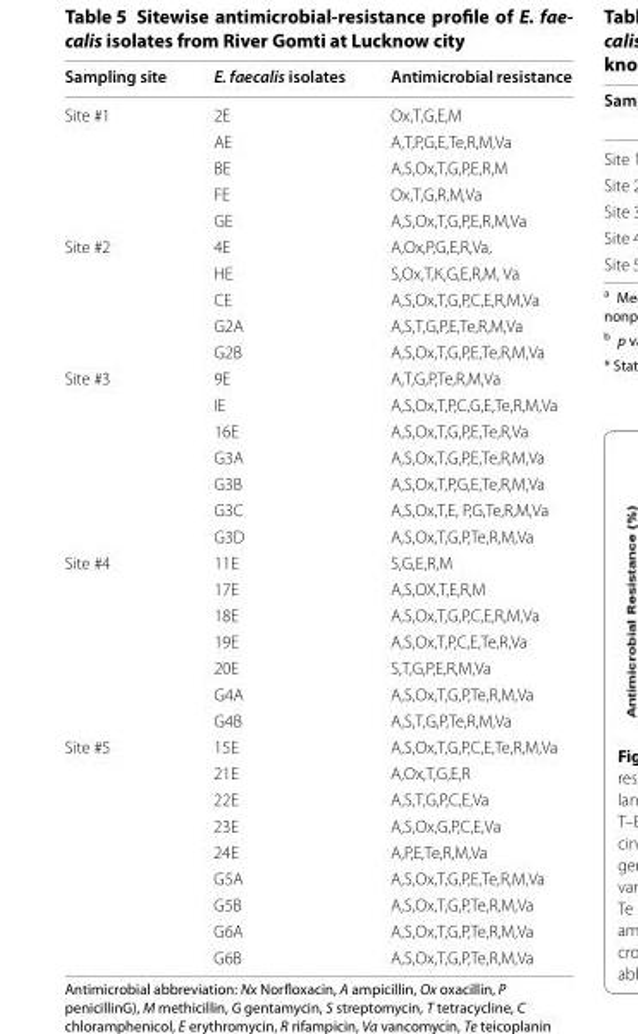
<table><thead><tr><td>Sampling site</td><td>E. faecalis isolates</td><td>Antimicrobial resistance</td></tr></thead><tbody><tr><td rowspan="5">Site #1</td><td>2E</td><td>Ox,T,G,E,M</td></tr><tr><td>AE</td><td>A,T,P,G,E,Te,R,M,Va</td></tr><tr><td>BE</td><td>A,S,Ox,T,G,P,E,R,M</td></tr><tr><td>FE</td><td>Ox,T,G,R,M,Va</td></tr><tr><td>GE</td><td>A,S,Ox,T,G,P,E,R,M,Va</td></tr><tr><td rowspan="5">Site #2</td><td>4E</td><td>A,Ox,P,G,E,R,Va,</td></tr><tr><td>HE</td><td>S,Ox,T,K,G,E,R,M, Va</td></tr><tr><td>CE</td><td>A,S,Ox,T,G,P,C,E,R,M,Va</td></tr><tr><td>G2A</td><td>A,S,T,G,P,E,Te,R,M,Va</td></tr><tr><td>G2B</td><td>A,S,Ox,T,G,P,E,Te,R,M,Va</td></tr><tr><td rowspan="7">Site #3</td><td>9E</td><td>A,T,G,P,Te,R,M,Va</td></tr><tr><td>IE</td><td>A,S,Ox,T,P,C,G,E,Te,R,M,Va</td></tr><tr><td>16E</td><td>A,S,Ox,T,G,P,E,Te,R,Va</td></tr><tr><td>G3A</td><td>A,S,Ox,T,G,P,E,Te,R,M,Va</td></tr><tr><td>G3B</td><td>A,S,Ox,T,P,G,E,Te,R,M,Va</td></tr><tr><td>G3C</td><td>A,S,Ox,T,E, P,G,Te,R,M,Va</td></tr><tr><td>G3D</td><td>A,S,Ox,T,G,P,Te,R,M,Va</td></tr><tr><td rowspan="7">Site #4</td><td>11E</td><td>S,G,E,R,M</td></tr><tr><td>17E</td><td>A,S,OX,T,E,R,M</td></tr><tr><td>18E</td><td>A,S,Ox,T,G,P,C,E,R,M,Va</td></tr><tr><td>19E</td><td>A,S,Ox,T,P,C,E,Te,R,Va</td></tr><tr><td>20E</td><td>S,T,G,P,E,R,M,Va</td></tr><tr><td>G4A</td><td>A,S,Ox,T,G,P,Te,R,M,Va</td></tr><tr><td>G4B</td><td>A,S,T,G,P,Te,R,M,Va</td></tr><tr><td rowspan="9">Site #5</td><td>15E</td><td>A,S,Ox,T,G,P,C,E,Te,R,M,Va</td></tr><tr><td>21E</td><td>A,Ox,T,G,E,R</td></tr><tr><td>22E</td><td>A,S,T,G,P,C,E,Va</td></tr><tr><td>23E</td><td>A,S,Ox,G,P,C,E,Va</td></tr><tr><td>24E</td><td>A,P,E,Te,R,M,Va</td></tr><tr><td>G5A</td><td>A,S,Ox,T,G,P,E,Te,R,M,Va</td></tr><tr><td>G5B</td><td>A,S,Ox,T,G,P,Te,R,M,Va</td></tr><tr><td>G6A</td><td>A,S,Ox,T,G,P,Te,R,M,Va</td></tr><tr><td>G6B</td><td>A,S,Ox,T,G,P,Te,R,M,Va</td></tr></tbody></table>